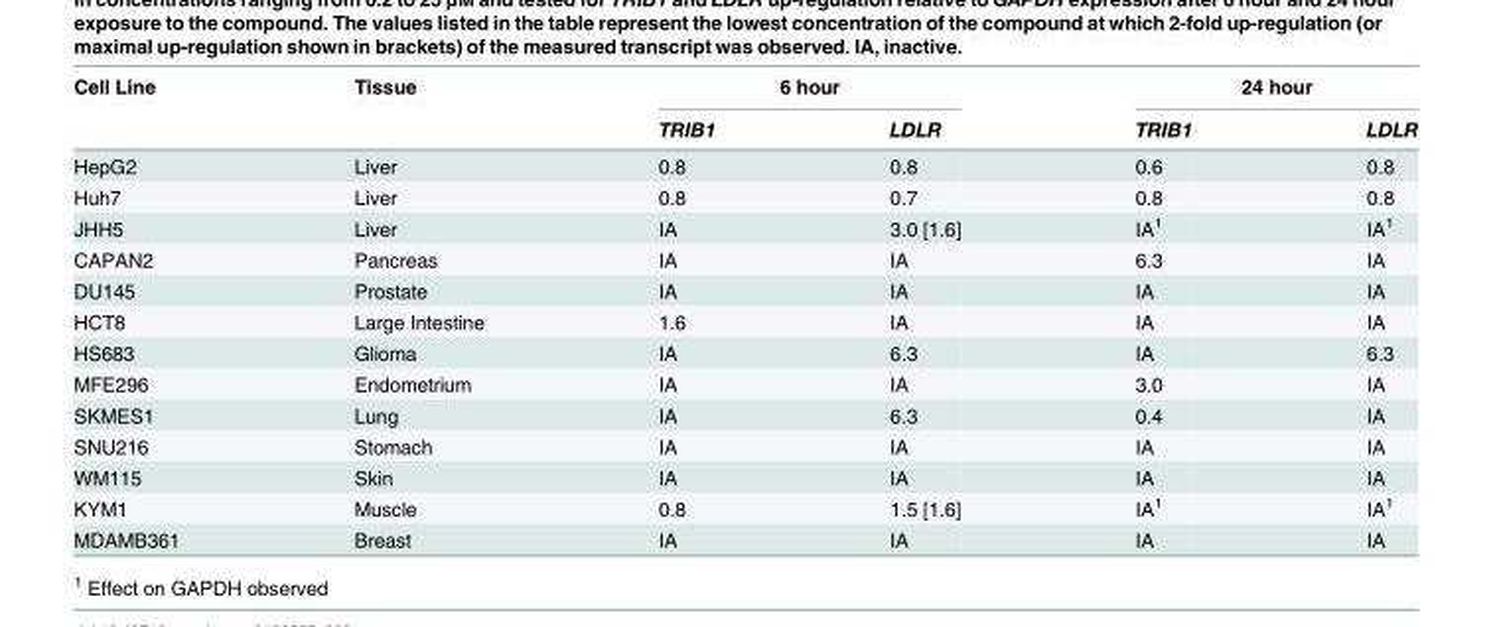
<table><thead><tr><td rowspan="2">Cell Line</td><td rowspan="2">Tissue</td><td colspan="2">6 hour</td><td colspan="2">24 hour</td></tr><tr><td>TRIB1</td><td>LDLR</td><td>TRIB1</td><td>LDLR</td></tr></thead><tbody><tr><td>HepG2</td><td>Liver</td><td>0.8</td><td>0.8</td><td>0.6</td><td>0.8</td></tr><tr><td>Huh7</td><td>Liver</td><td>0.8</td><td>0.7</td><td>0.8</td><td>0.8</td></tr><tr><td>JHH5</td><td>Liver</td><td>IA</td><td>3.0 [1.6]</td><td>IA<sup>1</sup></td><td>IA<sup>1</sup></td></tr><tr><td>CAPAN2</td><td>Pancreas</td><td>IA</td><td>IA</td><td>6.3</td><td>IA</td></tr><tr><td>DU145</td><td>Prostate</td><td>IA</td><td>IA</td><td>IA</td><td>IA</td></tr><tr><td>HCT8</td><td>Large Intestine</td><td>1.6</td><td>IA</td><td>IA</td><td>IA</td></tr><tr><td>HS683</td><td>Glioma</td><td>IA</td><td>6.3</td><td>IA</td><td>6.3</td></tr><tr><td>MFE296</td><td>Endometrium</td><td>IA</td><td>IA</td><td>3.0</td><td>IA</td></tr><tr><td>SKMES1</td><td>Lung</td><td>IA</td><td>6.3</td><td>0.4</td><td>IA</td></tr><tr><td>SNU216</td><td>Stomach</td><td>IA</td><td>IA</td><td>IA</td><td>IA</td></tr><tr><td>WM115</td><td>Skin</td><td>IA</td><td>IA</td><td>IA</td><td>IA</td></tr><tr><td>KYM1</td><td>Muscle</td><td>0.8</td><td>1.5 [1.6]</td><td>IA<sup>1</sup></td><td>IA<sup>1</sup></td></tr><tr><td>MDAMB361</td><td>Breast</td><td>IA</td><td>IA</td><td>IA</td><td>IA</td></tr></tbody></table>